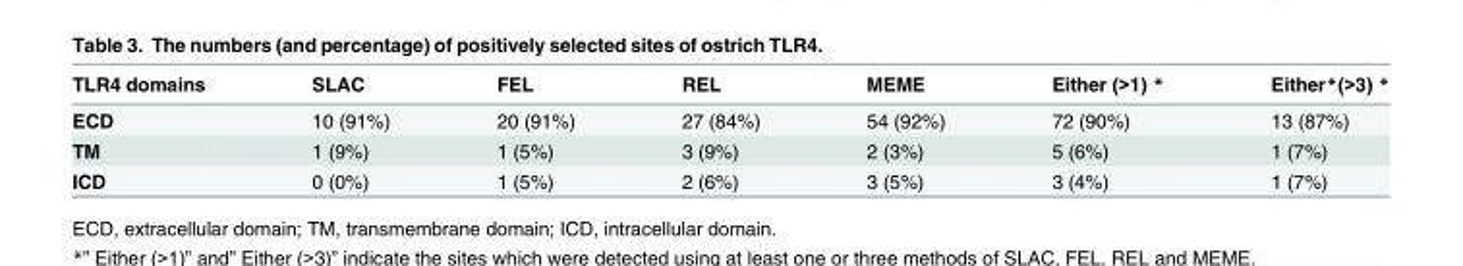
<table><thead><tr><td>TLR4 domains</td><td>SLAC</td><td>FEL</td><td>REL</td><td>MEME</td><td>Either (&gt;1) *</td><td>Either*(&gt;3) *</td></tr></thead><tbody><tr><td>ECD</td><td>10 (91%)</td><td>20 (91%)</td><td>27 (84%)</td><td>54 (92%)</td><td>72 (90%)</td><td>13 (87%)</td></tr><tr><td>TM</td><td>1 (9%)</td><td>1 (5%)</td><td>3 (9%)</td><td>2 (3%)</td><td>5 (6%)</td><td>1 (7%)</td></tr><tr><td>ICD</td><td>0 (0%)</td><td>1 (5%)</td><td>2 (6%)</td><td>3 (5%)</td><td>3 (4%)</td><td>1 (7%)</td></tr></tbody></table>